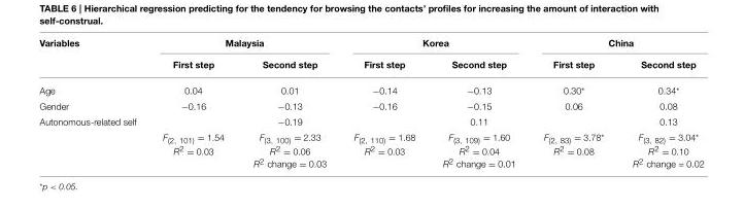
<table><thead><tr><td rowspan="2">Variables</td><td colspan="2">Malaysia</td><td colspan="2">Korea</td><td colspan="2">China</td></tr><tr><td>First step</td><td>Second step</td><td>First step</td><td>Second step</td><td>First step</td><td>Second step</td></tr></thead><tbody><tr><td>Age</td><td>0.04</td><td>0.01</td><td>−0.14</td><td>−0.13</td><td>0.30*</td><td>0.34*</td></tr><tr><td>Gender</td><td>−0.16</td><td>−0.13</td><td>−0.16</td><td>−0.15</td><td>0.06</td><td>0.08</td></tr><tr><td rowspan="2">Autonomous-related self</td><td></td><td>−0.19</td><td></td><td>0.11</td><td></td><td>0.13</td></tr><tr><td>F<sub>(2, 101)</sub> = 1.54 R<sup>2</sup> = 0.03</td><td>F<sub>(3, 100)</sub> = 2.33 R<sup>2</sup> = 0.06 R<sup>2</sup> change = 0.03</td><td>F<sub>(2, 110)</sub> = 1.68 R<sup>2</sup> = 0.03</td><td>F<sub>(3, 109)</sub> = 1.60 R<sup>2</sup> = 0.04 R<sup>2</sup> change = 0.01</td><td>F<sub>(2, 83)</sub> = 3.78* R<sup>2</sup> = 0.08</td><td>F<sub>(3, 82)</sub> = 3.04* R<sup>2</sup> = 0.10 R<sup>2</sup> change = 0.02</td></tr></tbody></table>